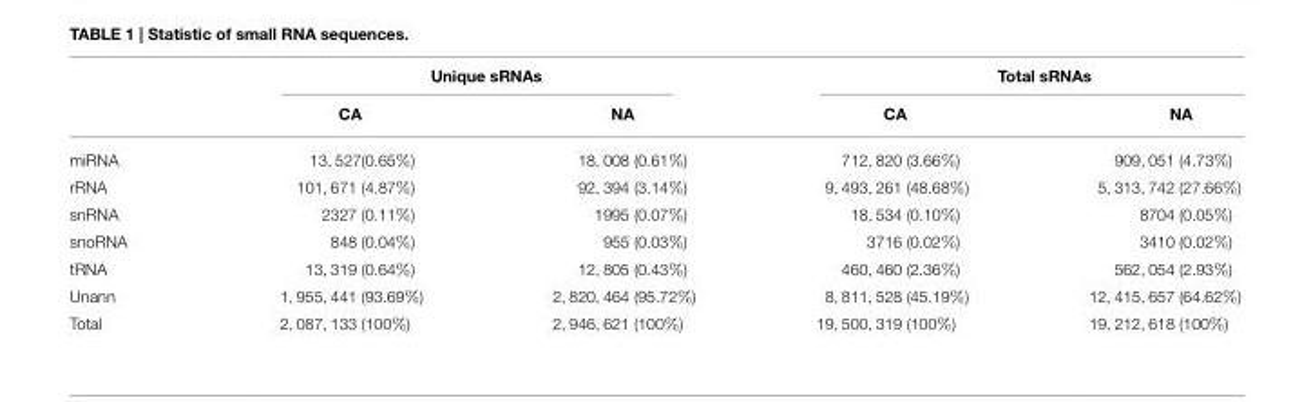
<table><thead><tr><td rowspan="2"></td><td colspan="2">Unique sRNAs</td><td colspan="2">Total sRNAs</td></tr><tr><td>CA</td><td>NA</td><td>CA</td><td>NA</td></tr></thead><tbody><tr><td>miRNA</td><td>13, 527(0.65%)</td><td>18, 008 (0.61%)</td><td>712, 820 (3.66%)</td><td>909, 051 (4.73%)</td></tr><tr><td>rRNA</td><td>101, 671 (4.87%)</td><td>92, 394 (3.14%)</td><td>9, 493, 261 (48.68%)</td><td>5, 313, 742 (27.66%)</td></tr><tr><td>snRNA</td><td>2327 (0.11%)</td><td>1995 (0.07%)</td><td>18, 534 (0.10%)</td><td>8704 (0.05%)</td></tr><tr><td>snoRNA</td><td>848 (0.04%)</td><td>955 (0.03%)</td><td>3716 (0.02%)</td><td>3410 (0.02%)</td></tr><tr><td>tRNA</td><td>13, 319 (0.64%)</td><td>12, 805 (0.43%)</td><td>460, 460 (2.36%)</td><td>562, 054 (2.93%)</td></tr><tr><td>Unann</td><td>1, 955, 441 (93.69%)</td><td>2, 820, 464 (95.72%)</td><td>8, 811, 528 (45.19%)</td><td>12, 415, 657 (64.62%)</td></tr><tr><td>Total</td><td>2, 087, 133 (100%)</td><td>2, 946, 621 (100%)</td><td>19, 500, 319 (100%)</td><td>19, 212, 618 (100%)</td></tr></tbody></table>